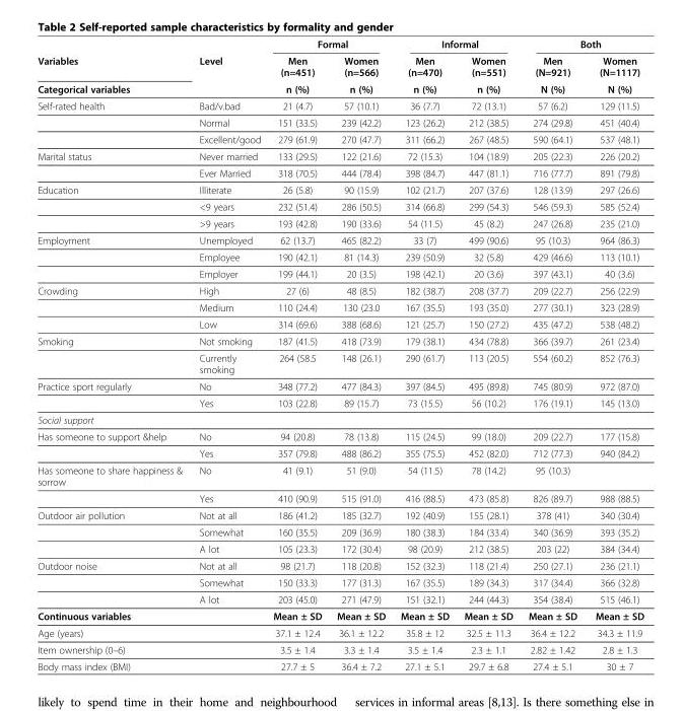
<table><thead><tr><td rowspan="3">Variables Categorical variables</td><td rowspan="3">Level</td><td colspan="2">Formal</td><td colspan="2">Informal</td><td colspan="2">Both</td></tr><tr><td rowspan="2">Men (n=451) n (%)</td><td rowspan="2">Women (n=566) n (%)</td><td rowspan="2">Men (n=470) n (%)</td><td rowspan="2">Women (n=551) n (%)</td><td rowspan="2">Men (N=921) N (%)</td><td rowspan="2">Women (N=1117) N (%)</td></tr><tr></tr></thead><tbody><tr><td rowspan="3">Self-rated health</td><td>Bad/v.bad</td><td>21 (4.7)</td><td>57 (10.1)</td><td>36 (7.7)</td><td>72 (13.1)</td><td>57 (6.2)</td><td>129 (11.5)</td></tr><tr><td>Normal</td><td>151 (33.5)</td><td>239 (42.2)</td><td>123 (26.2)</td><td>212 (38.5)</td><td>274 (29.8)</td><td>451 (40.4)</td></tr><tr><td>Excellent/good</td><td>279 (61.9)</td><td>270 (47.7)</td><td>311 (66.2)</td><td>267 (48.5)</td><td>590 (64.1)</td><td>537 (48.1)</td></tr><tr><td rowspan="2">Marital status</td><td>Never married</td><td>133 (29.5)</td><td>122 (21.6)</td><td>72 (15.3)</td><td>104 (18.9)</td><td>205 (22.3)</td><td>226 (20.2)</td></tr><tr><td>Ever Married</td><td>318 (70.5)</td><td>444 (78.4)</td><td>398 (84.7)</td><td>447 (81.1)</td><td>716 (77.7)</td><td>891 (79.8)</td></tr><tr><td rowspan="3">Education</td><td>Illiterate</td><td>26 (5.8)</td><td>90 (15.9)</td><td>102 (21.7)</td><td>207 (37.6)</td><td>128 (13.9)</td><td>297 (26.6)</td></tr><tr><td>&lt;9 years</td><td>232 (51.4)</td><td>286 (50.5)</td><td>314 (66.8)</td><td>299 (54.3)</td><td>546 (59.3)</td><td>585 (52.4)</td></tr><tr><td>&gt;9 years</td><td>193 (42.8)</td><td>190 (33.6)</td><td>54 (11.5)</td><td>45 (8.2)</td><td>247 (26.8)</td><td>235 (21.0)</td></tr><tr><td rowspan="3">Employment</td><td>Unemployed</td><td>62 (13.7)</td><td>465 (82.2)</td><td>33 (7)</td><td>499 (90.6)</td><td>95 (10.3)</td><td>964 (86.3)</td></tr><tr><td>Employee</td><td>190 (42.1)</td><td>81 (14.3)</td><td>239 (50.9)</td><td>32 (5.8)</td><td>429 (46.6)</td><td>113 (10.1)</td></tr><tr><td>Employer</td><td>199 (44.1)</td><td>20 (3.5)</td><td>198 (42.1)</td><td>20 (3.6)</td><td>397 (43.1)</td><td>40 (3.6)</td></tr><tr><td rowspan="3">Crowding</td><td>High</td><td>27 (6)</td><td>48 (8.5)</td><td>182 (38.7)</td><td>208 (37.7)</td><td>209 (22.7)</td><td>256 (22.9)</td></tr><tr><td>Medium</td><td>110 (24.4)</td><td>130 (23.0</td><td>167 (35.5)</td><td>193 (35.0)</td><td>277 (30.1)</td><td>323 (28.9)</td></tr><tr><td>Low</td><td>314 (69.6)</td><td>388 (68.6)</td><td>121 (25.7)</td><td>150 (27.2)</td><td>435 (47.2)</td><td>538 (48.2)</td></tr><tr><td rowspan="2">Smoking</td><td>Not smoking</td><td>187 (41.5)</td><td>418 (73.9)</td><td>179 (38.1)</td><td>434 (78.8)</td><td>366 (39.7)</td><td>261 (23.4)</td></tr><tr><td>Currently smoking</td><td>264 (58.5</td><td>148 (26.1)</td><td>290 (61.7)</td><td>113 (20.5)</td><td>554 (60.2)</td><td>852 (76.3)</td></tr><tr><td rowspan="2">Practice sport regularly</td><td>No</td><td>348 (77.2)</td><td>477 (84.3)</td><td>397 (84.5)</td><td>495 (89.8)</td><td>745 (80.9)</td><td>972 (87.0)</td></tr><tr><td>Yes</td><td>103 (22.8)</td><td>89 (15.7)</td><td>73 (15.5)</td><td>56 (10.2)</td><td>176 (19.1)</td><td>145 (13.0)</td></tr><tr><td colspan="8">Social support</td></tr><tr><td rowspan="2">Has someone to support &amp;help</td><td>No</td><td>94 (20.8)</td><td>78 (13.8)</td><td>115 (24.5)</td><td>99 (18.0)</td><td>209 (22.7)</td><td>177 (15.8)</td></tr><tr><td>Yes</td><td>357 (79.8)</td><td>488 (86.2)</td><td>355 (75.5)</td><td>452 (82.0)</td><td>712 (77.3)</td><td>940 (84.2)</td></tr><tr><td rowspan="2">Has someone to share happiness &amp; sorrow</td><td>No</td><td>41 (9.1)</td><td>51 (9.0)</td><td>54 (11.5)</td><td>78 (14.2)</td><td>95 (10.3)</td><td></td></tr><tr><td>Yes</td><td>410 (90.9)</td><td>515 (91.0)</td><td>416 (88.5)</td><td>473 (85.8)</td><td>826 (89.7)</td><td>988 (88.5)</td></tr><tr><td rowspan="3">Outdoor air pollution</td><td>Not at all</td><td>186 (41.2)</td><td>185 (32.7)</td><td>192 (40.9)</td><td>155 (28.1)</td><td>378 (41)</td><td>340 (30.4)</td></tr><tr><td>Somewhat</td><td>160 (35.5)</td><td>209 (36.9)</td><td>180 (38.3)</td><td>184 (33.4)</td><td>340 (36.9)</td><td>393 (35.2)</td></tr><tr><td>A lot</td><td>105 (23.3)</td><td>172 (30.4)</td><td>98 (20.9)</td><td>212 (38.5)</td><td>203 (22)</td><td>384 (34.4)</td></tr><tr><td rowspan="3">Outdoor noise</td><td>Not at all</td><td>98 (21.7)</td><td>118 (20.8)</td><td>152 (32.3)</td><td>118 (21.4)</td><td>250 (27.1)</td><td>236 (21.1)</td></tr><tr><td>Somewhat</td><td>150 (33.3)</td><td>177 (31.3)</td><td>167 (35.5)</td><td>189 (34.3)</td><td>317 (34.4)</td><td>366 (32.8)</td></tr><tr><td>A lot</td><td>203 (45.0)</td><td>271 (47.9)</td><td>151 (32.1)</td><td>244 (44.3)</td><td>354 (38.4)</td><td>515 (46.1)</td></tr><tr><td>Continuous variables</td><td></td><td>Mean ± SD</td><td>Mean ± SD</td><td>Mean ± SD</td><td>Mean ± SD</td><td>Mean ± SD</td><td>Mean ± SD</td></tr><tr><td>Age (years)</td><td></td><td>37.1 ± 12.4</td><td>36.1 ± 12.2</td><td>35.8 ± 12</td><td>32.5 ± 11.3</td><td>36.4 ± 12.2</td><td>34.3 ± 11.9</td></tr><tr><td>Item ownership (0–6)</td><td></td><td>3.5 ± 1.4</td><td>3.3 ± 1.4</td><td>3.5 ± 1.4</td><td>2.3 ± 1.1</td><td>2.82 ± 1.42</td><td>2.8 ± 1.3</td></tr><tr><td>Body mass index (BMI)</td><td></td><td>27.7 ± 5</td><td>36.4 ± 7.2</td><td>27.1 ± 5.1</td><td>29.7 ± 6.8</td><td>27.4 ± 5.1</td><td>30 ± 7</td></tr></tbody></table>